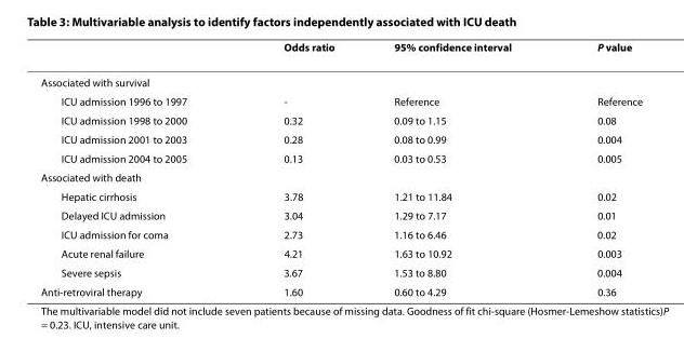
<table><thead><tr><td></td><td>Odds ratio</td><td>95% confidence interval</td><td>P value</td></tr></thead><tbody><tr><td colspan="4">Associated with survival</td></tr><tr><td>ICU admission 1996 to 1997</td><td>-</td><td>Reference</td><td>Reference</td></tr><tr><td>ICU admission 1998 to 2000</td><td>0.32</td><td>0.09 to 1.15</td><td>0.08</td></tr><tr><td>ICU admission 2001 to 2003</td><td>0.28</td><td>0.08 to 0.99</td><td>0.004</td></tr><tr><td>ICU admission 2004 to 2005</td><td>0.13</td><td>0.03 to 0.53</td><td>0.005</td></tr><tr><td colspan="4">Associated with death</td></tr><tr><td>Hepatic cirrhosis</td><td>3.78</td><td>1.21 to 11.84</td><td>0.02</td></tr><tr><td>Delayed ICU admission</td><td>3.04</td><td>1.29 to 7.17</td><td>0.01</td></tr><tr><td>ICU admission for coma</td><td>2.73</td><td>1.16 to 6.46</td><td>0.02</td></tr><tr><td>Acute renal failure</td><td>4.21</td><td>1.63 to 10.92</td><td>0.003</td></tr><tr><td>Severe sepsis</td><td>3.67</td><td>1.53 to 8.80</td><td>0.004</td></tr><tr><td>Anti-retroviral therapy</td><td>1.60</td><td>0.60 to 4.29</td><td>0.36</td></tr></tbody></table>